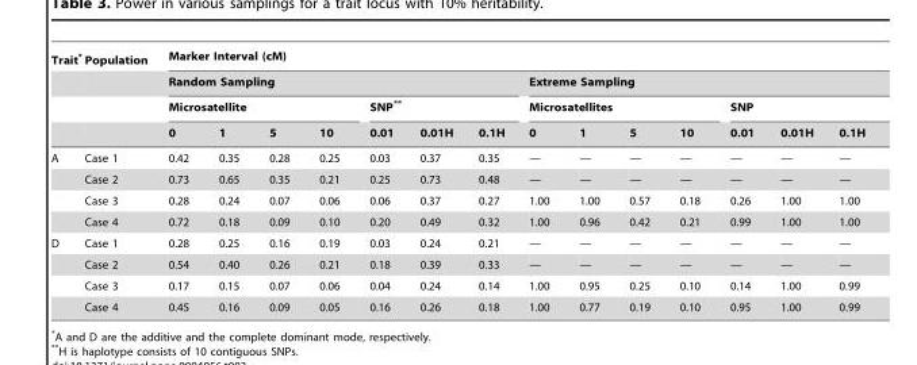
<table><thead><tr><td rowspan="4">Trait*</td><td rowspan="4">Population</td><td colspan="14">Marker Interval (cM)</td></tr><tr><td colspan="7">Random Sampling</td><td colspan="7">Extreme Sampling</td></tr><tr><td colspan="4">Microsatellite</td><td colspan="3">SNP**</td><td colspan="4">Microsatellites</td><td colspan="3">SNP</td></tr><tr><td>0</td><td>1</td><td>5</td><td>10</td><td>0.01</td><td>0.01H</td><td>0.1H</td><td>0</td><td>1</td><td>5</td><td>10</td><td>0.01</td><td>0.01H</td><td>0.1H</td></tr></thead><tbody><tr><td rowspan="4">A</td><td>Case 1</td><td>0.42</td><td>0.35</td><td>0.28</td><td>0.25</td><td>0.03</td><td>0.37</td><td>0.35</td><td>—</td><td>—</td><td>—</td><td>—</td><td>—</td><td>—</td><td>—</td></tr><tr><td>Case 2</td><td>0.73</td><td>0.65</td><td>0.35</td><td>0.21</td><td>0.25</td><td>0.73</td><td>0.48</td><td>—</td><td>—</td><td>—</td><td>—</td><td>—</td><td>—</td><td>—</td></tr><tr><td>Case 3</td><td>0.28</td><td>0.24</td><td>0.07</td><td>0.06</td><td>0.06</td><td>0.37</td><td>0.27</td><td>1.00</td><td>1.00</td><td>0.57</td><td>0.18</td><td>0.26</td><td>1.00</td><td>1.00</td></tr><tr><td>Case 4</td><td>0.72</td><td>0.18</td><td>0.09</td><td>0.10</td><td>0.20</td><td>0.49</td><td>0.32</td><td>1.00</td><td>0.96</td><td>0.42</td><td>0.21</td><td>0.99</td><td>1.00</td><td>1.00</td></tr><tr><td rowspan="4">D</td><td>Case 1</td><td>0.28</td><td>0.25</td><td>0.16</td><td>0.19</td><td>0.03</td><td>0.24</td><td>0.21</td><td>—</td><td>—</td><td>—</td><td>—</td><td>—</td><td>—</td><td>—</td></tr><tr><td>Case 2</td><td>0.54</td><td>0.40</td><td>0.26</td><td>0.21</td><td>0.18</td><td>0.39</td><td>0.33</td><td>—</td><td>—</td><td>—</td><td>—</td><td>—</td><td>—</td><td>—</td></tr><tr><td>Case 3</td><td>0.17</td><td>0.15</td><td>0.07</td><td>0.06</td><td>0.04</td><td>0.24</td><td>0.14</td><td>1.00</td><td>0.95</td><td>0.25</td><td>0.10</td><td>0.14</td><td>1.00</td><td>0.99</td></tr><tr><td>Case 4</td><td>0.45</td><td>0.16</td><td>0.09</td><td>0.05</td><td>0.16</td><td>0.26</td><td>0.18</td><td>1.00</td><td>0.77</td><td>0.19</td><td>0.10</td><td>0.95</td><td>1.00</td><td>0.99</td></tr></tbody></table>